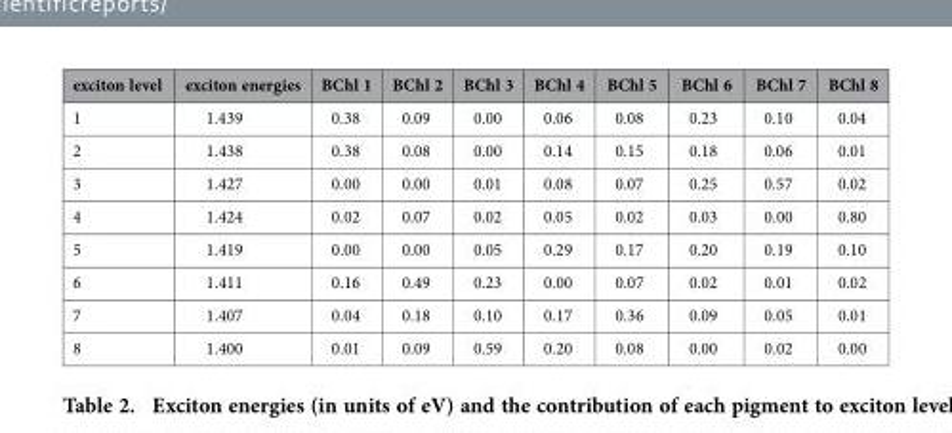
<table><thead><tr><td>exciton level</td><td>exciton energies</td><td>BChl 1</td><td>BChl 2</td><td>BChl 3</td><td>BChl 4</td><td>BChl 5</td><td>BChl 6</td><td>BChl 7</td><td>BChl 8</td></tr></thead><tbody><tr><td>1</td><td>1.439</td><td>0.38</td><td>0.09</td><td>0.00</td><td>0.06</td><td>0.08</td><td>0.23</td><td>0.10</td><td>0.04</td></tr><tr><td>2</td><td>1.438</td><td>0.38</td><td>0.08</td><td>0.00</td><td>0.14</td><td>0.15</td><td>0.18</td><td>0.06</td><td>0.01</td></tr><tr><td>3</td><td>1.427</td><td>0.00</td><td>0.00</td><td>0.01</td><td>0.08</td><td>0.07</td><td>0.25</td><td>0.57</td><td>0.02</td></tr><tr><td>4</td><td>1.424</td><td>0.02</td><td>0.07</td><td>0.02</td><td>0.05</td><td>0.02</td><td>0.03</td><td>0.00</td><td>0.80</td></tr><tr><td>5</td><td>1.419</td><td>0.00</td><td>0.00</td><td>0.05</td><td>0.29</td><td>0.17</td><td>0.20</td><td>0.19</td><td>0.10</td></tr><tr><td>6</td><td>1.411</td><td>0.16</td><td>0.49</td><td>0.23</td><td>0.00</td><td>0.07</td><td>0.02</td><td>0.01</td><td>0.02</td></tr><tr><td>7</td><td>1.407</td><td>0.04</td><td>0.18</td><td>0.10</td><td>0.17</td><td>0.36</td><td>0.09</td><td>0.05</td><td>0.01</td></tr><tr><td>8</td><td>1.400</td><td>0.01</td><td>0.09</td><td>0.59</td><td>0.20</td><td>0.08</td><td>0.00</td><td>0.02</td><td>0.00</td></tr></tbody></table>